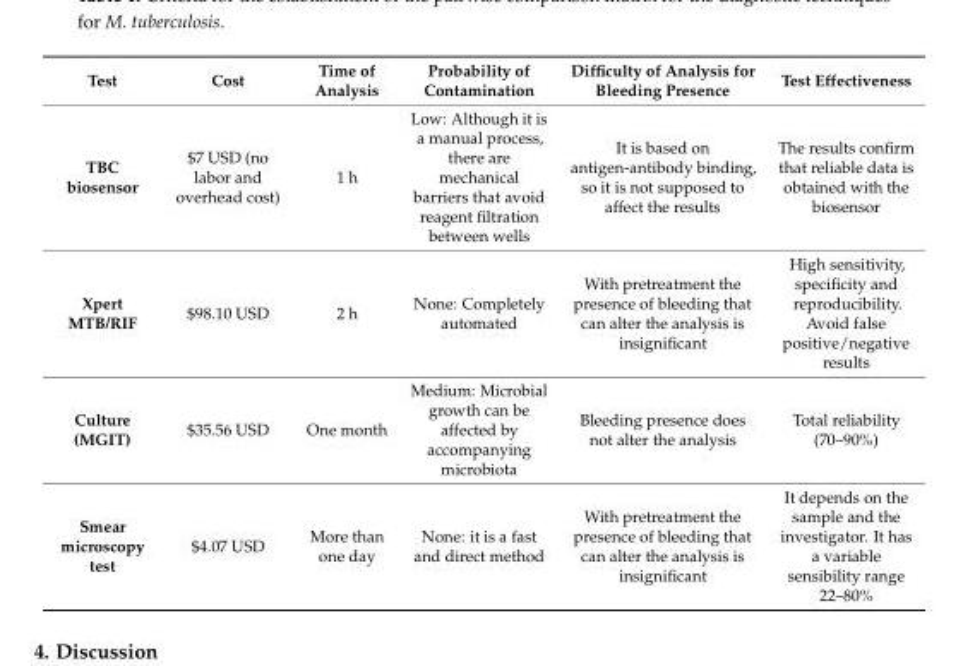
<table><thead><tr><td>Test</td><td>Cost</td><td>Time of Analysis</td><td>Probability of Contamination</td><td>Difficulty of Analysis for Bleeding Presence</td><td>Test Effectiveness</td></tr></thead><tbody><tr><td>TBC biosensor</td><td>$7 USD (no labor and overhead cost)</td><td>1 h</td><td>Low: Although it is a manual process, there are mechanical barriers that avoid reagent filtration between wells</td><td>It is based on antigen-antibody binding, so it is not supposed to affect the results</td><td>The results confirm that reliable data is obtained with the biosensor</td></tr><tr><td>Xpert MTB/RIF</td><td>$98.10 USD</td><td>2 h</td><td>None: Completely automated</td><td>With pretreatment the presence of bleeding that can alter the analysis is insignificant</td><td>High sensitivity, specificity and reproducibility. Avoid false positive/negative results</td></tr><tr><td>Culture (MGIT)</td><td>$35.56 USD</td><td>One month</td><td>Medium: Microbial growth can be affected by accompanying microbiota</td><td>Bleeding presence does not alter the analysis</td><td>Total reliability (70–90%)</td></tr><tr><td>Smear microscopy test</td><td>$4.07 USD</td><td>More than one day</td><td>None: it is a fast and direct method</td><td>With pretreatment the presence of bleeding that can alter the analysis is insignificant</td><td>It depends on the sample and the investigator. It has a variable sensibility range 22–80%</td></tr></tbody></table>